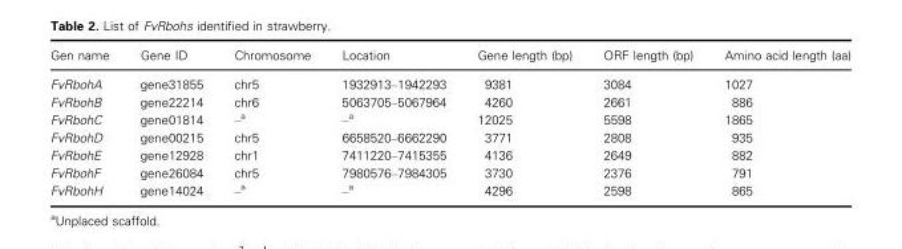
<table><thead><tr><td>Gen name</td><td>Gene ID</td><td>Chromosome</td><td>Location</td><td>Gene length (bp)</td><td>ORF length (bp)</td><td>Amino acid length (aa)</td></tr></thead><tbody><tr><td>FvRbohA</td><td>gene31855</td><td>chr5</td><td>1932913–1942293</td><td>9381</td><td>3084</td><td>1027</td></tr><tr><td>FvRbohB</td><td>gene22214</td><td>chr6</td><td>5063705–5067964</td><td>4260</td><td>2661</td><td>886</td></tr><tr><td>FvRbohC</td><td>gene01814</td><td>–a</td><td>–a</td><td>12025</td><td>5598</td><td>1865</td></tr><tr><td>FvRbohD</td><td>gene00215</td><td>chr5</td><td>6658520–6662290</td><td>3771</td><td>2808</td><td>935</td></tr><tr><td>FvRbohE</td><td>gene12928</td><td>chr1</td><td>7411220–7415355</td><td>4136</td><td>2649</td><td>882</td></tr><tr><td>FvRbohF</td><td>gene26084</td><td>chr5</td><td>7980576–7984305</td><td>3730</td><td>2376</td><td>791</td></tr><tr><td>FvRbohH</td><td>gene14024</td><td>–a</td><td>–a</td><td>4296</td><td>2598</td><td>865</td></tr></tbody></table>